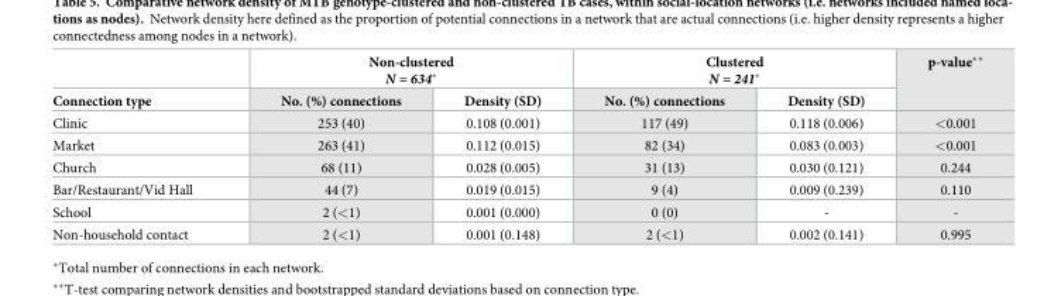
<table><thead><tr><td rowspan="2">Connection type</td><td colspan="2">Non-clustered N = 634*</td><td colspan="2">Clustered N = 241*</td><td rowspan="2">p-value**</td></tr><tr><td>No. (%) connections</td><td>Density (SD)</td><td>No. (%) connections</td><td>Density (SD)</td></tr></thead><tbody><tr><td>Clinic</td><td>253 (40)</td><td>0.108 (0.001)</td><td>117 (49)</td><td>0.118 (0.006)</td><td>&lt;0.001</td></tr><tr><td>Market</td><td>263 (41)</td><td>0.112 (0.015)</td><td>82 (34)</td><td>0.083 (0.003)</td><td>&lt;0.001</td></tr><tr><td>Church</td><td>68 (11)</td><td>0.028 (0.005)</td><td>31 (13)</td><td>0.030 (0.121)</td><td>0.244</td></tr><tr><td>Bar/Restaurant/Vid Hall</td><td>44 (7)</td><td>0.019 (0.015)</td><td>9 (4)</td><td>0.009 (0.239)</td><td>0.110</td></tr><tr><td>School</td><td>2 (&lt;1)</td><td>0.001 (0.000)</td><td>0 (0)</td><td>-</td><td>-</td></tr><tr><td>Non-household contact</td><td>2 (&lt;1)</td><td>0.001 (0.148)</td><td>2 (&lt;1)</td><td>0.002 (0.141)</td><td>0.995</td></tr></tbody></table>